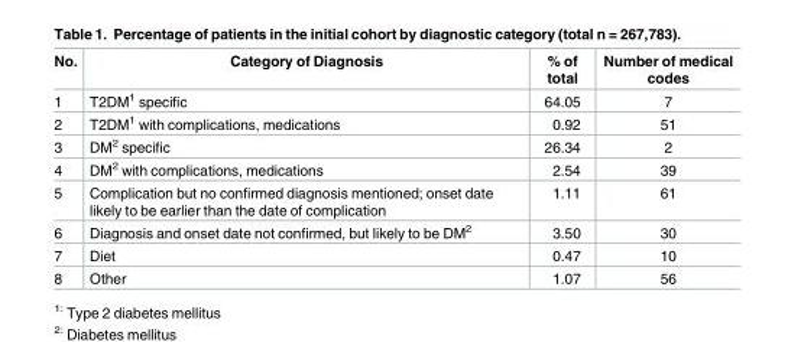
<table><thead><tr><td>No.</td><td>Category of Diagnosis</td><td>% of total</td><td>Number of medical codes</td></tr></thead><tbody><tr><td>1</td><td>T2DM<sup>1</sup> specific</td><td>64.05</td><td>7</td></tr><tr><td>2</td><td>T2DM<sup>1</sup> with complications, medications</td><td>0.92</td><td>51</td></tr><tr><td>3</td><td>DM<sup>2</sup> specific</td><td>26.34</td><td>2</td></tr><tr><td>4</td><td>DM<sup>2</sup> with complications, medications</td><td>2.54</td><td>39</td></tr><tr><td>5</td><td>Complication but no confirmed diagnosis mentioned; onset date likely to be earlier than the date of complication</td><td>1.11</td><td>61</td></tr><tr><td>6</td><td>Diagnosis and onset date not confirmed, but likely to be DM<sup>2</sup></td><td>3.50</td><td>30</td></tr><tr><td>7</td><td>Diet</td><td>0.47</td><td>10</td></tr><tr><td>8</td><td>Other</td><td>1.07</td><td>56</td></tr></tbody></table>